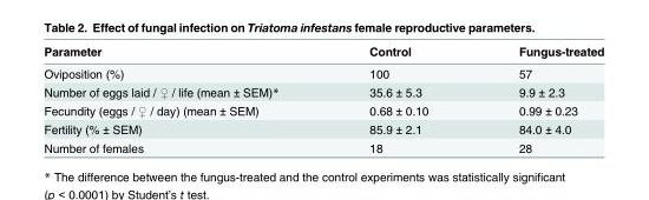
<table><thead><tr><td>Parameter</td><td>Control</td><td>Fungus-treated</td></tr></thead><tbody><tr><td>Oviposition (%)</td><td>100</td><td>57</td></tr><tr><td>Number of eggs laid / ♀ / life (mean ± SEM)*</td><td>35.6 ± 5.3</td><td>9.9 ± 2.3</td></tr><tr><td>Fecundity (eggs / ♀ / day) (mean ± SEM)</td><td>0.68 ± 0.10</td><td>0.99 ± 0.23</td></tr><tr><td>Fertility (% ± SEM)</td><td>85.9 ± 2.1</td><td>84.0 ± 4.0</td></tr><tr><td>Number of females</td><td>18</td><td>28</td></tr></tbody></table>